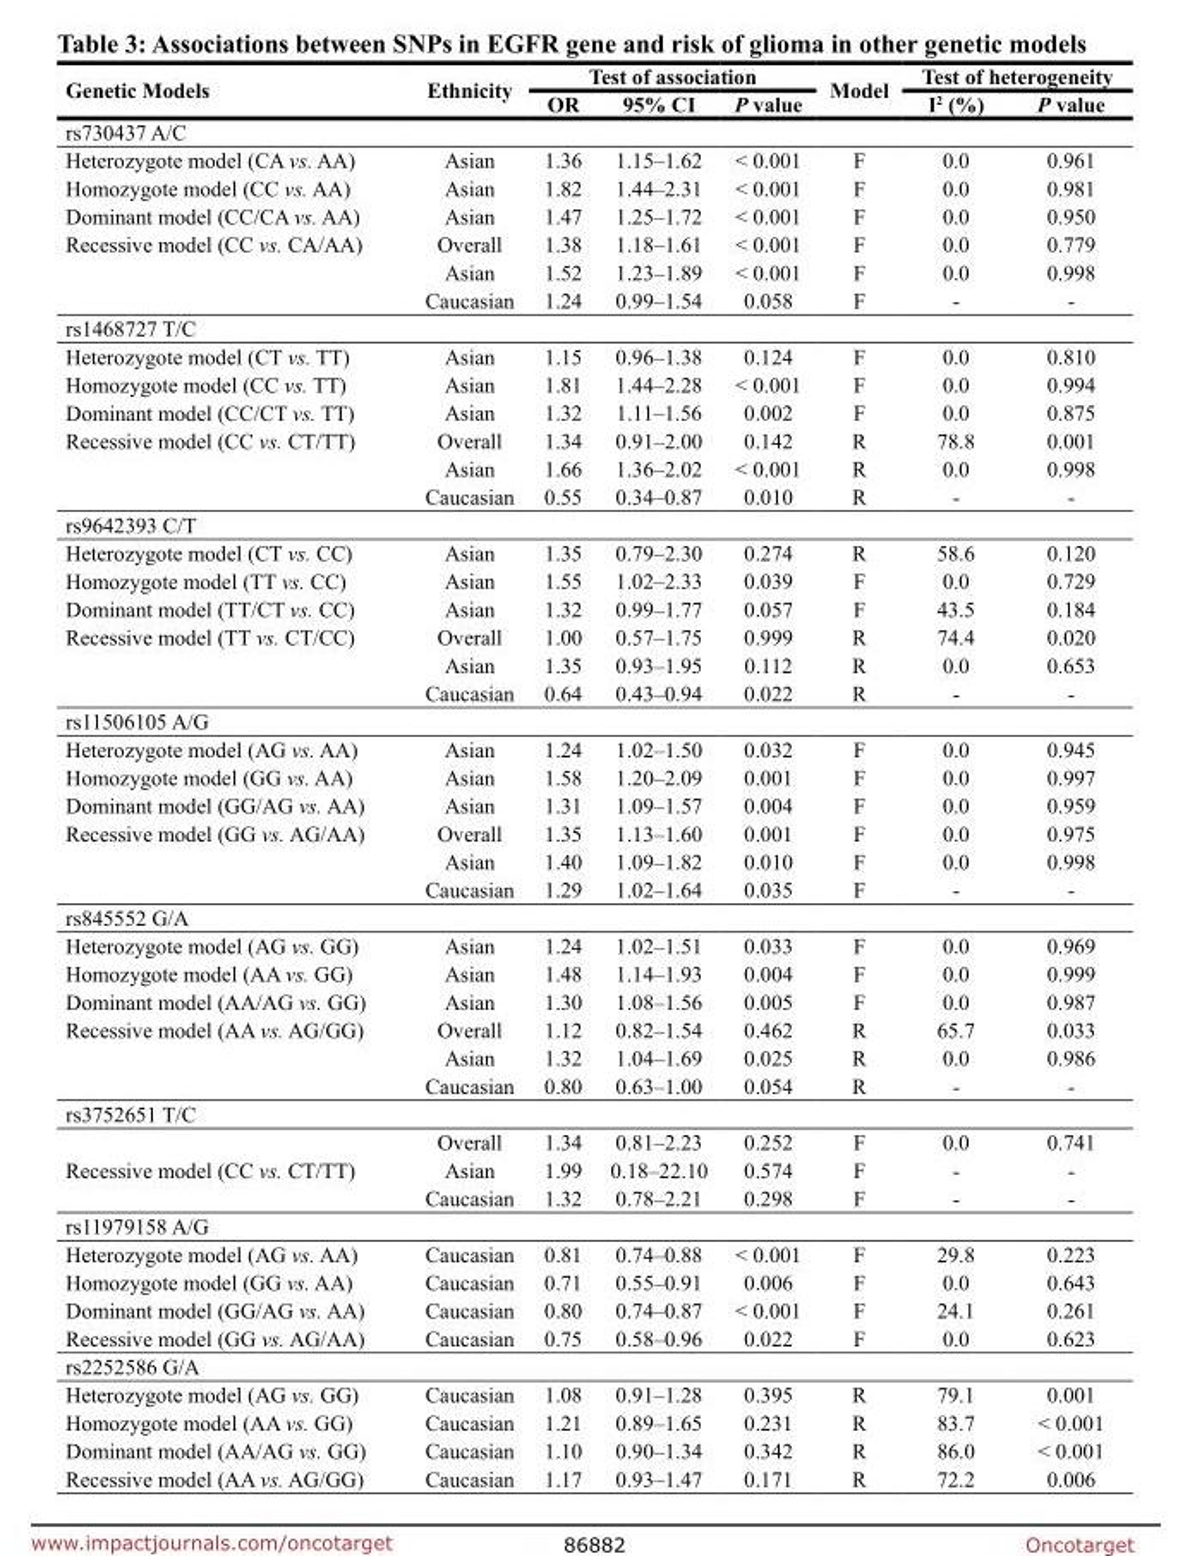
<table><thead><tr><td rowspan="2">Genetic Models</td><td rowspan="2">Ethnicity</td><td colspan="3">Test of association</td><td rowspan="2">Model</td><td colspan="2">Test of heterogeneity</td></tr><tr><td>OR</td><td>95% CI</td><td>P value</td><td>I<sup>2</sup> (%)</td><td>P value</td></tr></thead><tbody><tr><td colspan="8">rs730437 A/C</td></tr><tr><td>Heterozygote model (CA vs. AA)</td><td>Asian</td><td>1.36</td><td>1.15–1.62</td><td>&lt; 0.001</td><td>F</td><td>0.0</td><td>0.961</td></tr><tr><td>Homozygote model (CC vs. AA)</td><td>Asian</td><td>1.82</td><td>1.44–2.31</td><td>&lt; 0.001</td><td>F</td><td>0.0</td><td>0.981</td></tr><tr><td>Dominant model (CC/CA vs. AA)</td><td>Asian</td><td>1.47</td><td>1.25–1.72</td><td>&lt; 0.001</td><td>F</td><td>0.0</td><td>0.950</td></tr><tr><td rowspan="3">Recessive model (CC vs. CA/AA)</td><td>Overall</td><td>1.38</td><td>1.18–1.61</td><td>&lt; 0.001</td><td>F</td><td>0.0</td><td>0.779</td></tr><tr><td>Asian</td><td>1.52</td><td>1.23–1.89</td><td>&lt; 0.001</td><td>F</td><td>0.0</td><td>0.998</td></tr><tr><td>Caucasian</td><td>1.24</td><td>0.99–1.54</td><td>0.058</td><td>F</td><td>-</td><td>-</td></tr><tr><td colspan="8">rs1468727 T/C</td></tr><tr><td>Heterozygote model (CT vs. TT)</td><td>Asian</td><td>1.15</td><td>0.96–1.38</td><td>0.124</td><td>F</td><td>0.0</td><td>0.810</td></tr><tr><td>Homozygote model (CC vs. TT)</td><td>Asian</td><td>1.81</td><td>1.44–2.28</td><td>&lt; 0.001</td><td>F</td><td>0.0</td><td>0.994</td></tr><tr><td>Dominant model (CC/CT vs. TT)</td><td>Asian</td><td>1.32</td><td>1.11–1.56</td><td>0.002</td><td>F</td><td>0.0</td><td>0.875</td></tr><tr><td rowspan="3">Recessive model (CC vs. CT/TT)</td><td>Overall</td><td>1.34</td><td>0.91–2.00</td><td>0.142</td><td>R</td><td>78.8</td><td>0.001</td></tr><tr><td>Asian</td><td>1.66</td><td>1.36–2.02</td><td>&lt; 0.001</td><td>R</td><td>0.0</td><td>0.998</td></tr><tr><td>Caucasian</td><td>0.55</td><td>0.34–0.87</td><td>0.010</td><td>R</td><td>-</td><td>-</td></tr><tr><td colspan="8">rs9642393 C/T</td></tr><tr><td>Heterozygote model (CT vs. CC)</td><td>Asian</td><td>1.35</td><td>0.79–2.30</td><td>0.274</td><td>R</td><td>58.6</td><td>0.120</td></tr><tr><td>Homozygote model (TT vs. CC)</td><td>Asian</td><td>1.55</td><td>1.02–2.33</td><td>0.039</td><td>F</td><td>0.0</td><td>0.729</td></tr><tr><td>Dominant model (TT/CT vs. CC)</td><td>Asian</td><td>1.32</td><td>0.99–1.77</td><td>0.057</td><td>F</td><td>43.5</td><td>0.184</td></tr><tr><td rowspan="3">Recessive model (TT vs. CT/CC)</td><td>Overall</td><td>1.00</td><td>0.57–1.75</td><td>0.999</td><td>R</td><td>74.4</td><td>0.020</td></tr><tr><td>Asian</td><td>1.35</td><td>0.93–1.95</td><td>0.112</td><td>R</td><td>0.0</td><td>0.653</td></tr><tr><td>Caucasian</td><td>0.64</td><td>0.43–0.94</td><td>0.022</td><td>R</td><td>-</td><td>-</td></tr><tr><td colspan="8">rs11506105 A/G</td></tr><tr><td>Heterozygote model (AG vs. AA)</td><td>Asian</td><td>1.24</td><td>1.02–1.50</td><td>0.032</td><td>F</td><td>0.0</td><td>0.945</td></tr><tr><td>Homozygote model (GG vs. AA)</td><td>Asian</td><td>1.58</td><td>1.20–2.09</td><td>0.001</td><td>F</td><td>0.0</td><td>0.997</td></tr><tr><td>Dominant model (GG/AG vs. AA)</td><td>Asian</td><td>1.31</td><td>1.09–1.57</td><td>0.004</td><td>F</td><td>0.0</td><td>0.959</td></tr><tr><td rowspan="3">Recessive model (GG vs. AG/AA)</td><td>Overall</td><td>1.35</td><td>1.13–1.60</td><td>0.001</td><td>F</td><td>0.0</td><td>0.975</td></tr><tr><td>Asian</td><td>1.40</td><td>1.09–1.82</td><td>0.010</td><td>F</td><td>0.0</td><td>0.998</td></tr><tr><td>Caucasian</td><td>1.29</td><td>1.02–1.64</td><td>0.035</td><td>F</td><td>-</td><td>-</td></tr><tr><td colspan="8">rs845552 G/A</td></tr><tr><td>Heterozygote model (AG vs. GG)</td><td>Asian</td><td>1.24</td><td>1.02–1.51</td><td>0.033</td><td>F</td><td>0.0</td><td>0.969</td></tr><tr><td>Homozygote model (AA vs. GG)</td><td>Asian</td><td>1.48</td><td>1.14–1.93</td><td>0.004</td><td>F</td><td>0.0</td><td>0.999</td></tr><tr><td>Dominant model (AA/AG vs. GG)</td><td>Asian</td><td>1.30</td><td>1.08–1.56</td><td>0.005</td><td>F</td><td>0.0</td><td>0.987</td></tr><tr><td rowspan="3">Recessive model (AA vs. AG/GG)</td><td>Overall</td><td>1.12</td><td>0.82–1.54</td><td>0.462</td><td>R</td><td>65.7</td><td>0.033</td></tr><tr><td>Asian</td><td>1.32</td><td>1.04–1.69</td><td>0.025</td><td>R</td><td>0.0</td><td>0.986</td></tr><tr><td>Caucasian</td><td>0.80</td><td>0.63–1.00</td><td>0.054</td><td>R</td><td>-</td><td>-</td></tr><tr><td colspan="8">rs3752651 T/C</td></tr><tr><td rowspan="3">Recessive model (CC vs. CT/TT)</td><td>Overall</td><td>1.34</td><td>0.81–2.23</td><td>0.252</td><td>F</td><td>0.0</td><td>0.741</td></tr><tr><td>Asian</td><td>1.99</td><td>0.18–22.10</td><td>0.574</td><td>F</td><td>-</td><td>-</td></tr><tr><td>Caucasian</td><td>1.32</td><td>0.78–2.21</td><td>0.298</td><td>F</td><td>-</td><td>-</td></tr><tr><td colspan="8">rs11979158 A/G</td></tr><tr><td>Heterozygote model (AG vs. AA)</td><td>Caucasian</td><td>0.81</td><td>0.74–0.88</td><td>&lt; 0.001</td><td>F</td><td>29.8</td><td>0.223</td></tr><tr><td>Homozygote model (GG vs. AA)</td><td>Caucasian</td><td>0.71</td><td>0.55–0.91</td><td>0.006</td><td>F</td><td>0.0</td><td>0.643</td></tr><tr><td>Dominant model (GG/AG vs. AA)</td><td>Caucasian</td><td>0.80</td><td>0.74–0.87</td><td>&lt; 0.001</td><td>F</td><td>24.1</td><td>0.261</td></tr><tr><td>Recessive model (GG vs. AG/AA)</td><td>Caucasian</td><td>0.75</td><td>0.58–0.96</td><td>0.022</td><td>F</td><td>0.0</td><td>0.623</td></tr><tr><td colspan="8">rs2252586 G/A</td></tr><tr><td>Heterozygote model (AG vs. GG)</td><td>Caucasian</td><td>1.08</td><td>0.91–1.28</td><td>0.395</td><td>R</td><td>79.1</td><td>0.001</td></tr><tr><td>Homozygote model (AA vs. GG)</td><td>Caucasian</td><td>1.21</td><td>0.89–1.65</td><td>0.231</td><td>R</td><td>83.7</td><td>&lt; 0.001</td></tr><tr><td>Dominant model (AA/AG vs. GG)</td><td>Caucasian</td><td>1.10</td><td>0.90–1.34</td><td>0.342</td><td>R</td><td>86.0</td><td>&lt; 0.001</td></tr><tr><td>Recessive model (AA vs. AG/GG)</td><td>Caucasian</td><td>1.17</td><td>0.93–1.47</td><td>0.171</td><td>R</td><td>72.2</td><td>0.006</td></tr></tbody></table>